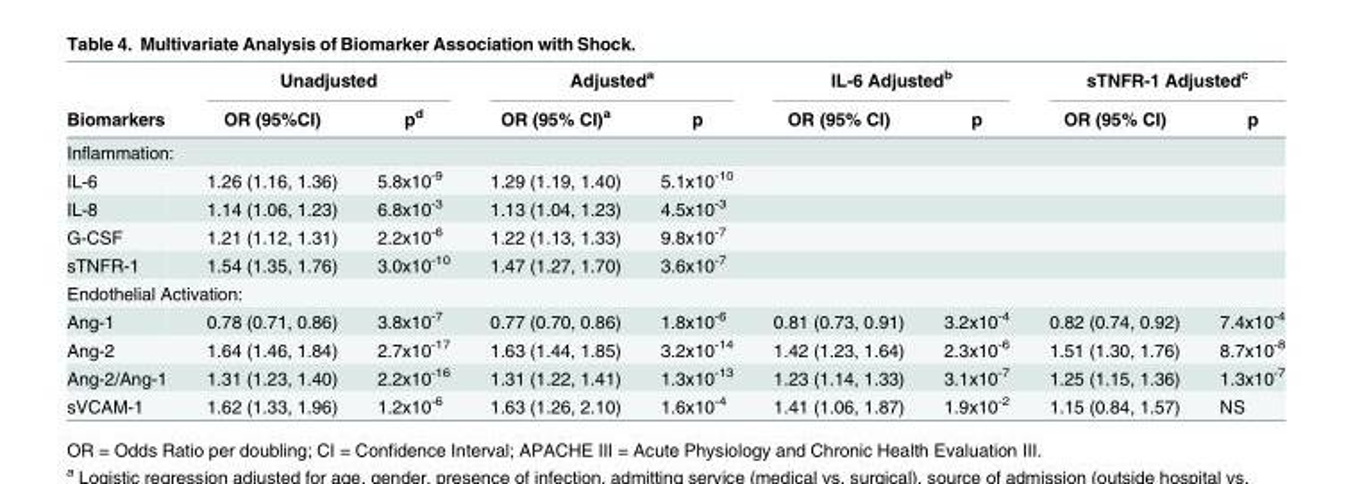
<table><thead><tr><td rowspan="2">Biomarkers</td><td colspan="2">Unadjusted</td><td colspan="2">Adjusted<sup>a</sup></td><td colspan="2">IL-6 Adjusted<sup>b</sup></td><td colspan="2">sTNFR-1 Adjusted<sup>c</sup></td></tr><tr><td>OR (95%CI)</td><td>p<sup>d</sup></td><td>OR (95% CI)<sup>a</sup></td><td>p</td><td>OR (95% CI)</td><td>p</td><td>OR (95% CI)</td><td>p</td></tr></thead><tbody><tr><td colspan="9">Inflammation:</td></tr><tr><td>IL-6</td><td>1.26 (1.16, 1.36)</td><td>5.8x10<sup>-9</sup></td><td>1.29 (1.19, 1.40)</td><td>5.1x10<sup>-10</sup></td><td></td><td></td><td></td><td></td></tr><tr><td>IL-8</td><td>1.14 (1.06, 1.23)</td><td>6.8x10<sup>-3</sup></td><td>1.13 (1.04, 1.23)</td><td>4.5x10<sup>-3</sup></td><td></td><td></td><td></td><td></td></tr><tr><td>G-CSF</td><td>1.21 (1.12, 1.31)</td><td>2.2x10<sup>-6</sup></td><td>1.22 (1.13, 1.33)</td><td>9.8x10<sup>-7</sup></td><td></td><td></td><td></td><td></td></tr><tr><td>sTNFR-1</td><td>1.54 (1.35, 1.76)</td><td>3.0x10<sup>-10</sup></td><td>1.47 (1.27, 1.70)</td><td>3.6x10<sup>-7</sup></td><td></td><td></td><td></td><td></td></tr><tr><td colspan="9">Endothelial Activation:</td></tr><tr><td>Ang-1</td><td>0.78 (0.71, 0.86)</td><td>3.8x10<sup>-7</sup></td><td>0.77 (0.70, 0.86)</td><td>1.8x10<sup>-6</sup></td><td>0.81 (0.73, 0.91)</td><td>3.2x10<sup>-4</sup></td><td>0.82 (0.74, 0.92)</td><td>7.4x10<sup>-4</sup></td></tr><tr><td>Ang-2</td><td>1.64 (1.46, 1.84)</td><td>2.7x10<sup>-17</sup></td><td>1.63 (1.44, 1.85)</td><td>3.2x10<sup>-14</sup></td><td>1.42 (1.23, 1.64)</td><td>2.3x10<sup>-6</sup></td><td>1.51 (1.30, 1.76)</td><td>8.7x10<sup>-8</sup></td></tr><tr><td>Ang-2/Ang-1</td><td>1.31 (1.23, 1.40)</td><td>2.2x10<sup>-16</sup></td><td>1.31 (1.22, 1.41)</td><td>1.3x10<sup>-13</sup></td><td>1.23 (1.14, 1.33)</td><td>3.1x10<sup>-7</sup></td><td>1.25 (1.15, 1.36)</td><td>1.3x10<sup>-7</sup></td></tr><tr><td>sVCAM-1</td><td>1.62 (1.33, 1.96)</td><td>1.2x10<sup>-6</sup></td><td>1.63 (1.26, 2.10)</td><td>1.6x10<sup>-4</sup></td><td>1.41 (1.06, 1.87)</td><td>1.9x10<sup>-2</sup></td><td>1.15 (0.84, 1.57)</td><td>NS</td></tr></tbody></table>